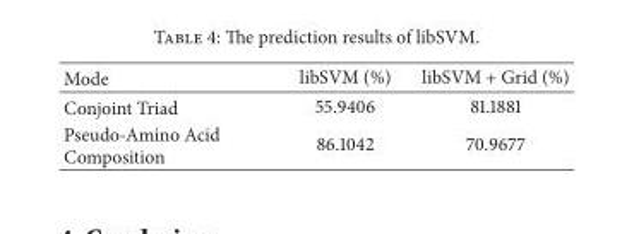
<table><thead><tr><td>Mode</td><td>libSVM (%)</td><td>libSVM + Grid (%)</td></tr></thead><tbody><tr><td>Conjoint Triad</td><td>55.9406</td><td>81.1881</td></tr><tr><td>Pseudo-Amino Acid Composition</td><td>86.1042</td><td>70.9677</td></tr></tbody></table>